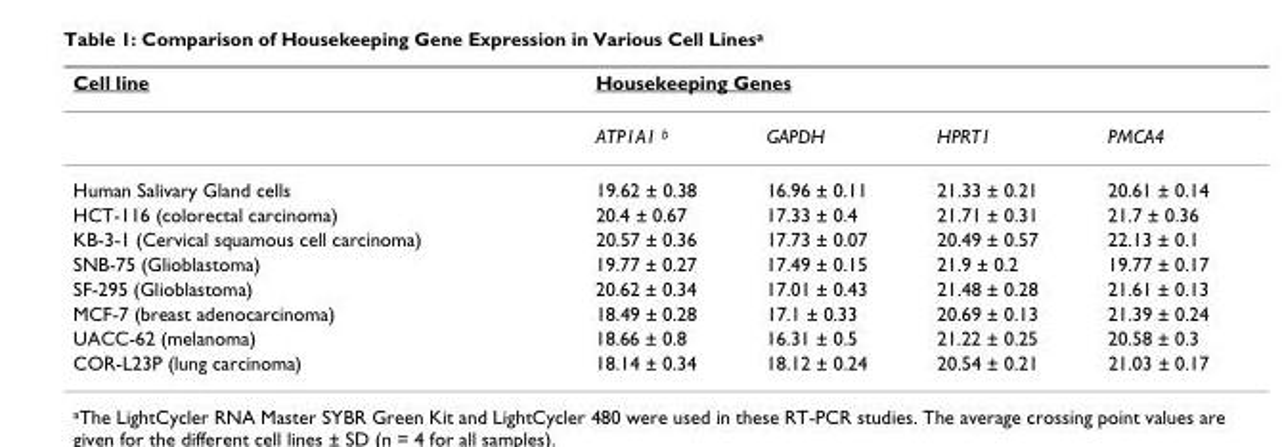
<table><thead><tr><td rowspan="2">Cell line</td><td colspan="4">Housekeeping Genes</td></tr><tr><td>ATP1A1 b</td><td>GAPDH</td><td>HPRT1</td><td>PMCA4</td></tr></thead><tbody><tr><td>Human Salivary Gland cells</td><td>19.62 ± 0.38</td><td>16.96 ± 0.11</td><td>21.33 ± 0.21</td><td>20.61 ± 0.14</td></tr><tr><td>HCT-116 (colorectal carcinoma)</td><td>20.4 ± 0.67</td><td>17.33 ± 0.4</td><td>21.71 ± 0.31</td><td>21.7 ± 0.36</td></tr><tr><td>KB-3-1 (Cervical squamous cell carcinoma)</td><td>20.57 ± 0.36</td><td>17.73 ± 0.07</td><td>20.49 ± 0.57</td><td>22.13 ± 0.1</td></tr><tr><td>SNB-75 (Glioblastoma)</td><td>19.77 ± 0.27</td><td>17.49 ± 0.15</td><td>21.9 ± 0.2</td><td>19.77 ± 0.17</td></tr><tr><td>SF-295 (Glioblastoma)</td><td>20.62 ± 0.34</td><td>17.01 ± 0.43</td><td>21.48 ± 0.28</td><td>21.61 ± 0.13</td></tr><tr><td>MCF-7 (breast adenocarcinoma)</td><td>18.49 ± 0.28</td><td>17.1 ± 0.33</td><td>20.69 ± 0.13</td><td>21.39 ± 0.24</td></tr><tr><td>UACC-62 (melanoma)</td><td>18.66 ± 0.8</td><td>16.31 ± 0.5</td><td>21.22 ± 0.25</td><td>20.58 ± 0.3</td></tr><tr><td>COR-L23P (lung carcinoma)</td><td>18.14 ± 0.34</td><td>18.12 ± 0.24</td><td>20.54 ± 0.21</td><td>21.03 ± 0.17</td></tr></tbody></table>